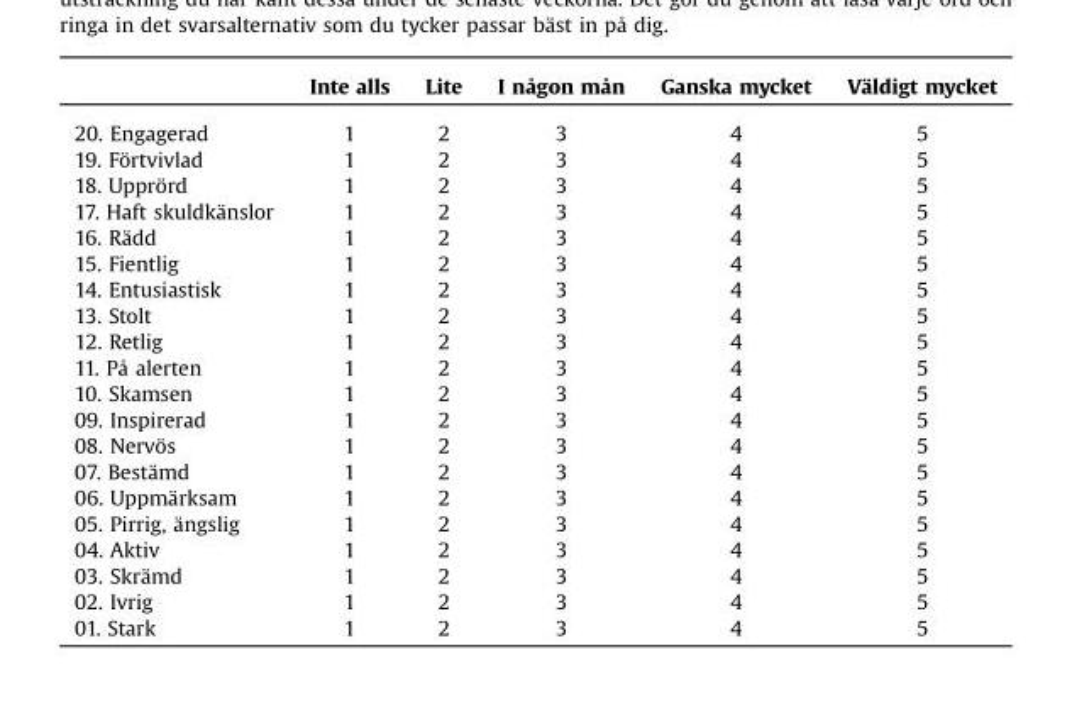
<table><thead><tr><td></td><td>Inte alls</td><td>Lite</td><td>I någon mån</td><td>Ganska mycket</td><td>Väldigt mycket</td></tr></thead><tbody><tr><td>20. Engagerad</td><td>1</td><td>2</td><td>3</td><td>4</td><td>5</td></tr><tr><td>19. Förtvivlad</td><td>1</td><td>2</td><td>3</td><td>4</td><td>5</td></tr><tr><td>18. Upprörd</td><td>1</td><td>2</td><td>3</td><td>4</td><td>5</td></tr><tr><td>17. Haft skuldkänslor</td><td>1</td><td>2</td><td>3</td><td>4</td><td>5</td></tr><tr><td>16. Rädd</td><td>1</td><td>2</td><td>3</td><td>4</td><td>5</td></tr><tr><td>15. Fientlig</td><td>1</td><td>2</td><td>3</td><td>4</td><td>5</td></tr><tr><td>14. Entusiastisk</td><td>1</td><td>2</td><td>3</td><td>4</td><td>5</td></tr><tr><td>13. Stolt</td><td>1</td><td>2</td><td>3</td><td>4</td><td>5</td></tr><tr><td>12. Retlig</td><td>1</td><td>2</td><td>3</td><td>4</td><td>5</td></tr><tr><td>11. På alerten</td><td>1</td><td>2</td><td>3</td><td>4</td><td>5</td></tr><tr><td>10. Skamsen</td><td>1</td><td>2</td><td>3</td><td>4</td><td>5</td></tr><tr><td>09. Inspirerad</td><td>1</td><td>2</td><td>3</td><td>4</td><td>5</td></tr><tr><td>08. Nervös</td><td>1</td><td>2</td><td>3</td><td>4</td><td>5</td></tr><tr><td>07. Bestämd</td><td>1</td><td>2</td><td>3</td><td>4</td><td>5</td></tr><tr><td>06. Uppmärksam</td><td>1</td><td>2</td><td>3</td><td>4</td><td>5</td></tr><tr><td>05. Pirrig, ängslig</td><td>1</td><td>2</td><td>3</td><td>4</td><td>5</td></tr><tr><td>04. Aktiv</td><td>1</td><td>2</td><td>3</td><td>4</td><td>5</td></tr><tr><td>03. Skrämd</td><td>1</td><td>2</td><td>3</td><td>4</td><td>5</td></tr><tr><td>02. Ivrig</td><td>1</td><td>2</td><td>3</td><td>4</td><td>5</td></tr><tr><td>01. Stark</td><td>1</td><td>2</td><td>3</td><td>4</td><td>5</td></tr></tbody></table>